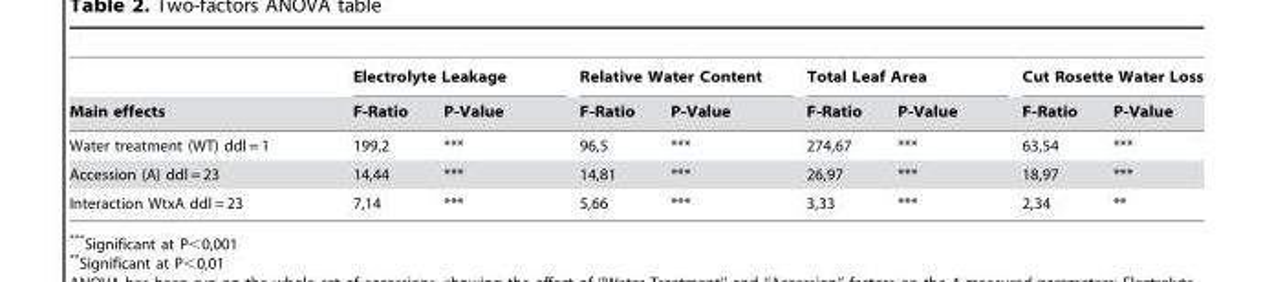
<table><thead><tr><td rowspan="2">Main effects</td><td colspan="2">Electrolyte Leakage</td><td colspan="2">Relative Water Content</td><td colspan="2">Total Leaf Area</td><td colspan="2">Cut Rosette Water Loss</td></tr><tr><td>F-Ratio</td><td>P-Value</td><td>F-Ratio</td><td>P-Value</td><td>F-Ratio</td><td>P-Value</td><td>F-Ratio</td><td>P-Value</td></tr></thead><tbody><tr><td>Water treatment (WT) ddl = 1</td><td>199,2</td><td>***</td><td>96,5</td><td>***</td><td>274,67</td><td>***</td><td>63,54</td><td>***</td></tr><tr><td>Accession (A) ddl = 23</td><td>14,44</td><td>***</td><td>14,81</td><td>***</td><td>26,97</td><td>***</td><td>18,97</td><td>***</td></tr><tr><td>Interaction WtxA ddl = 23</td><td>7,14</td><td>***</td><td>5,66</td><td>***</td><td>3,33</td><td>***</td><td>2,34</td><td>**</td></tr></tbody></table>